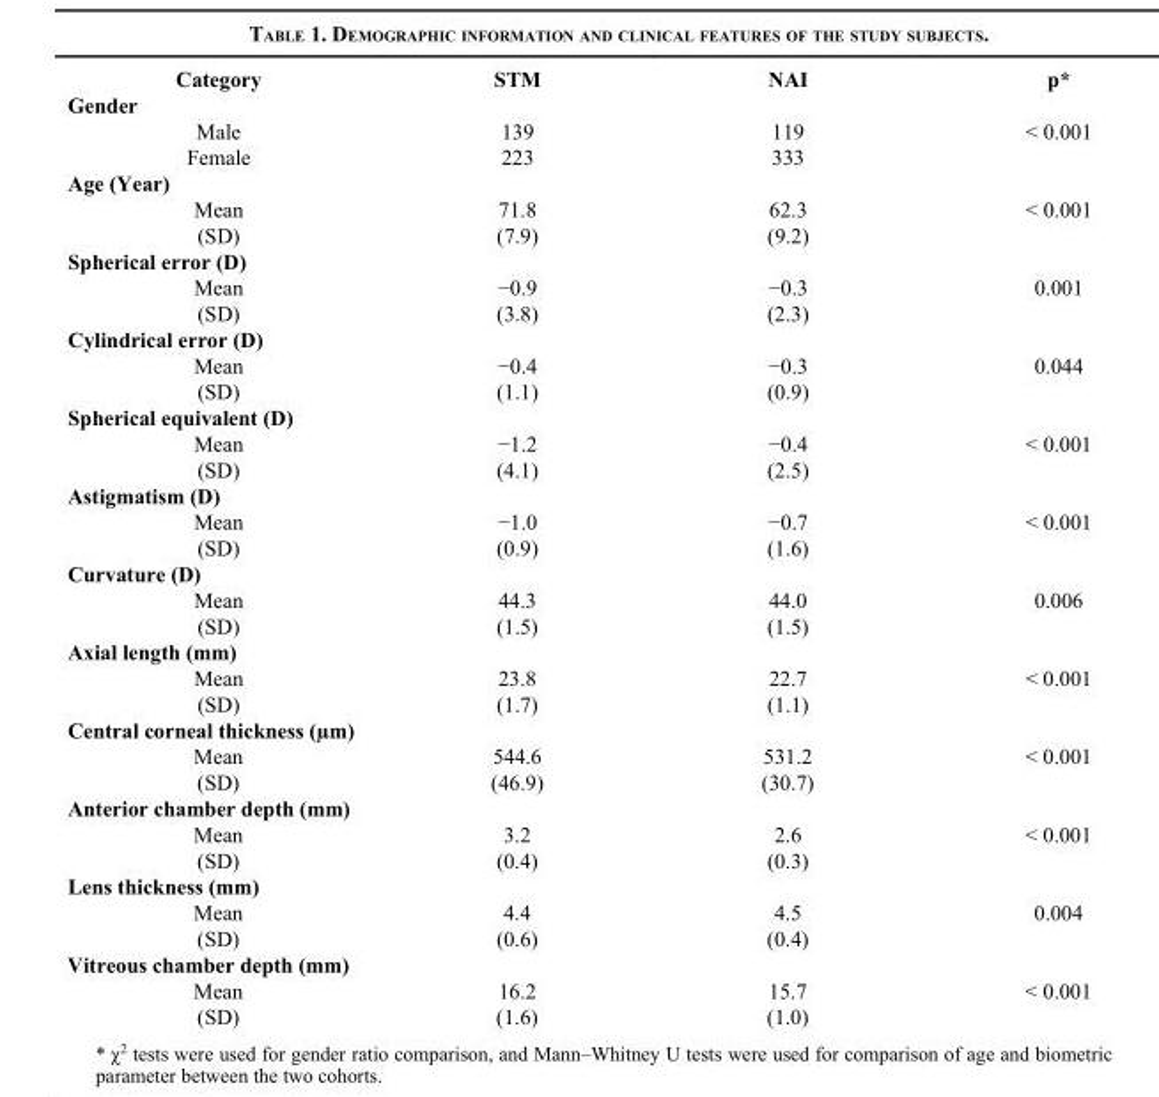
<table><thead><tr><td>Category</td><td>STM</td><td>NAI</td><td>p*</td></tr></thead><tbody><tr><td colspan="4">Gender</td></tr><tr><td>Male</td><td>139</td><td>119</td><td>&lt; 0.001</td></tr><tr><td>Female</td><td>223</td><td>333</td><td></td></tr><tr><td colspan="4">Age (Year)</td></tr><tr><td>Mean</td><td>71.8</td><td>62.3</td><td>&lt; 0.001</td></tr><tr><td>(SD)</td><td>(7.9)</td><td>(9.2)</td><td></td></tr><tr><td colspan="4">Spherical error (D)</td></tr><tr><td>Mean</td><td>−0.9</td><td>−0.3</td><td>0.001</td></tr><tr><td>(SD)</td><td>(3.8)</td><td>(2.3)</td><td></td></tr><tr><td colspan="4">Cylindrical error (D)</td></tr><tr><td>Mean</td><td>−0.4</td><td>−0.3</td><td>0.044</td></tr><tr><td>(SD)</td><td>(1.1)</td><td>(0.9)</td><td></td></tr><tr><td colspan="4">Spherical equivalent (D)</td></tr><tr><td>Mean</td><td>−1.2</td><td>−0.4</td><td>&lt; 0.001</td></tr><tr><td>(SD)</td><td>(4.1)</td><td>(2.5)</td><td></td></tr><tr><td colspan="4">Astigmatism (D)</td></tr><tr><td>Mean</td><td>−1.0</td><td>−0.7</td><td>&lt; 0.001</td></tr><tr><td>(SD)</td><td>(0.9)</td><td>(1.6)</td><td></td></tr><tr><td colspan="4">Curvature (D)</td></tr><tr><td>Mean</td><td>44.3</td><td>44.0</td><td>0.006</td></tr><tr><td>(SD)</td><td>(1.5)</td><td>(1.5)</td><td></td></tr><tr><td colspan="4">Axial length (mm)</td></tr><tr><td>Mean</td><td>23.8</td><td>22.7</td><td>&lt; 0.001</td></tr><tr><td>(SD)</td><td>(1.7)</td><td>(1.1)</td><td></td></tr><tr><td colspan="4">Central corneal thickness (µm)</td></tr><tr><td>Mean</td><td>544.6</td><td>531.2</td><td>&lt; 0.001</td></tr><tr><td>(SD)</td><td>(46.9)</td><td>(30.7)</td><td></td></tr><tr><td colspan="4">Anterior chamber depth (mm)</td></tr><tr><td>Mean</td><td>3.2</td><td>2.6</td><td>&lt; 0.001</td></tr><tr><td>(SD)</td><td>(0.4)</td><td>(0.3)</td><td></td></tr><tr><td colspan="4">Lens thickness (mm)</td></tr><tr><td>Mean</td><td>4.4</td><td>4.5</td><td>0.004</td></tr><tr><td>(SD)</td><td>(0.6)</td><td>(0.4)</td><td></td></tr><tr><td colspan="4">Vitreous chamber depth (mm)</td></tr><tr><td>Mean</td><td>16.2</td><td>15.7</td><td>&lt; 0.001</td></tr><tr><td>(SD)</td><td>(1.6)</td><td>(1.0)</td><td></td></tr></tbody></table>